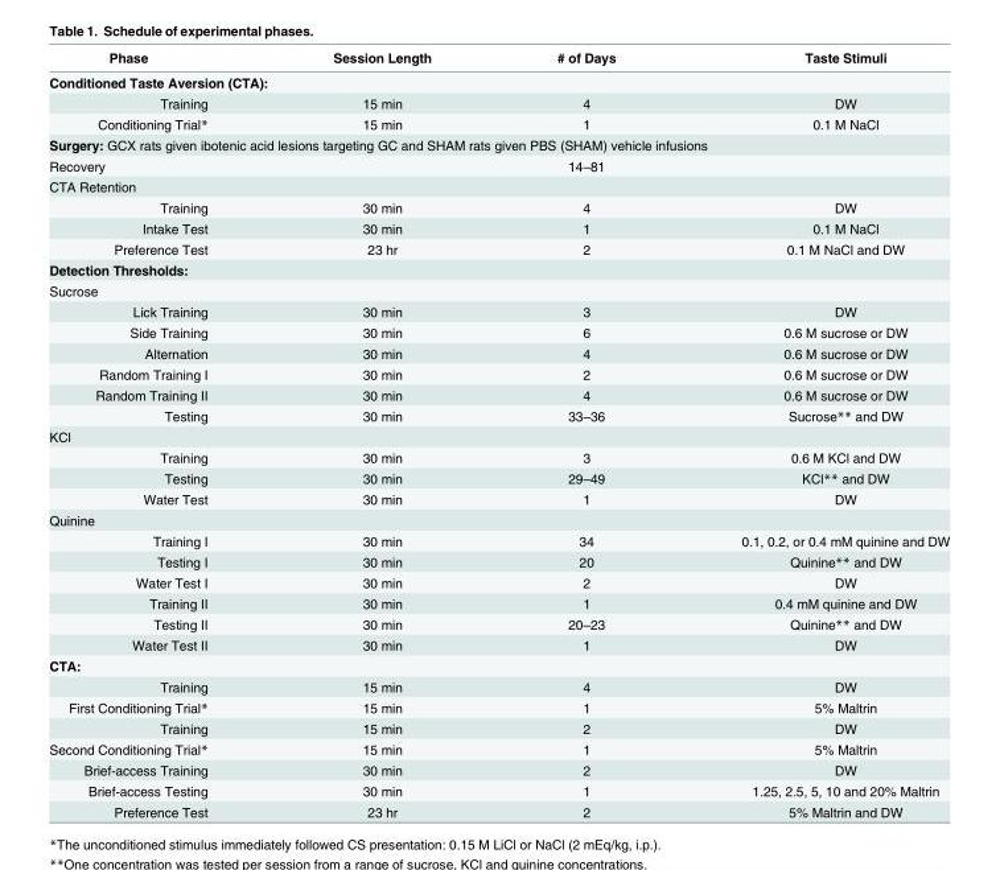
<table><thead><tr><td>Phase</td><td>Session Length</td><td># of Days</td><td>Taste Stimuli</td></tr></thead><tbody><tr><td colspan="4">Conditioned Taste Aversion (CTA):</td></tr><tr><td>Training</td><td>15 min</td><td>4</td><td>DW</td></tr><tr><td>Conditioning Trial*</td><td>15 min</td><td>1</td><td>0.1 M NaCl</td></tr><tr><td colspan="4">Surgery: GCX rats given ibotenic acid lesions targeting GC and SHAM rats given PBS (SHAM) vehicle infusions</td></tr><tr><td colspan="2">Recovery</td><td>14–81</td><td></td></tr><tr><td colspan="4">CTA Retention</td></tr><tr><td>Training</td><td>30 min</td><td>4</td><td>DW</td></tr><tr><td>Intake Test</td><td>30 min</td><td>1</td><td>0.1 M NaCl</td></tr><tr><td>Preference Test</td><td>23 hr</td><td>2</td><td>0.1 M NaCl and DW</td></tr><tr><td colspan="4">Detection Thresholds:</td></tr><tr><td colspan="4">Sucrose</td></tr><tr><td>Lick Training</td><td>30 min</td><td>3</td><td>DW</td></tr><tr><td>Side Training</td><td>30 min</td><td>6</td><td>0.6 M sucrose or DW</td></tr><tr><td>Alternation</td><td>30 min</td><td>4</td><td>0.6 M sucrose or DW</td></tr><tr><td>Random Training I</td><td>30 min</td><td>2</td><td>0.6 M sucrose or DW</td></tr><tr><td>Random Training II</td><td>30 min</td><td>4</td><td>0.6 M sucrose or DW</td></tr><tr><td>Testing</td><td>30 min</td><td>33–36</td><td>Sucrose** and DW</td></tr><tr><td colspan="4">KCl</td></tr><tr><td>Training</td><td>30 min</td><td>3</td><td>0.6 M KCl and DW</td></tr><tr><td>Testing</td><td>30 min</td><td>29–49</td><td>KCl** and DW</td></tr><tr><td>Water Test</td><td>30 min</td><td>1</td><td>DW</td></tr><tr><td colspan="4">Quinine</td></tr><tr><td>Training I</td><td>30 min</td><td>34</td><td>0.1, 0.2, or 0.4 mM quinine and DW</td></tr><tr><td>Testing I</td><td>30 min</td><td>20</td><td>Quinine** and DW</td></tr><tr><td>Water Test I</td><td>30 min</td><td>2</td><td>DW</td></tr><tr><td>Training II</td><td>30 min</td><td>1</td><td>0.4 mM quinine and DW</td></tr><tr><td>Testing II</td><td>30 min</td><td>20–23</td><td>Quinine** and DW</td></tr><tr><td>Water Test II</td><td>30 min</td><td>1</td><td>DW</td></tr><tr><td colspan="4">CTA:</td></tr><tr><td>Training</td><td>15 min</td><td>4</td><td>DW</td></tr><tr><td>First Conditioning Trial*</td><td>15 min</td><td>1</td><td>5% Maltrin</td></tr><tr><td>Training</td><td>15 min</td><td>2</td><td>DW</td></tr><tr><td>Second Conditioning Trial*</td><td>15 min</td><td>1</td><td>5% Maltrin</td></tr><tr><td>Brief-access Training</td><td>30 min</td><td>2</td><td>DW</td></tr><tr><td>Brief-access Testing</td><td>30 min</td><td>1</td><td>1.25, 2.5, 5, 10 and 20% Maltrin</td></tr><tr><td>Preference Test</td><td>23 hr</td><td>2</td><td>5% Maltrin and DW</td></tr></tbody></table>